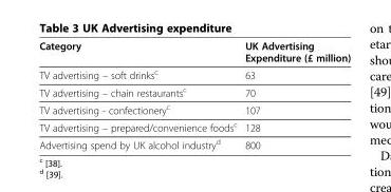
<table><thead><tr><td>Category</td><td>UK Advertising Expenditure (£ million)</td></tr></thead><tbody><tr><td>TV advertising – soft drinks<sup>c</sup></td><td>63</td></tr><tr><td>TV advertising – chain restaurants<sup>c</sup></td><td>70</td></tr><tr><td>TV advertising - confectionery<sup>c</sup></td><td>107</td></tr><tr><td>TV advertising – prepared/convenience foods<sup>c</sup></td><td>128</td></tr><tr><td>Advertising spend by UK alcohol industry<sup>d</sup></td><td>800</td></tr></tbody></table>